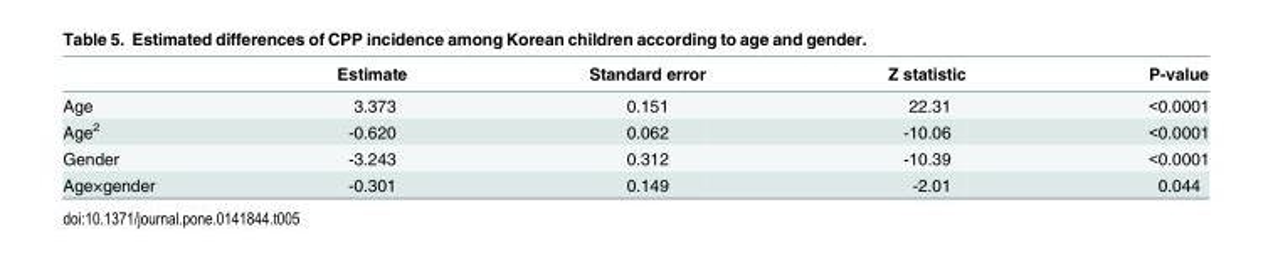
<table><thead><tr><td></td><td>Estimate</td><td>Standard error</td><td>Z statistic</td><td>P-value</td></tr></thead><tbody><tr><td>Age</td><td>3.373</td><td>0.151</td><td>22.31</td><td>&lt;0.0001</td></tr><tr><td>Age<sup>2</sup></td><td>-0.620</td><td>0.062</td><td>-10.06</td><td>&lt;0.0001</td></tr><tr><td>Gender</td><td>-3.243</td><td>0.312</td><td>-10.39</td><td>&lt;0.0001</td></tr><tr><td>Age×gender</td><td>-0.301</td><td>0.149</td><td>-2.01</td><td>0.044</td></tr></tbody></table>